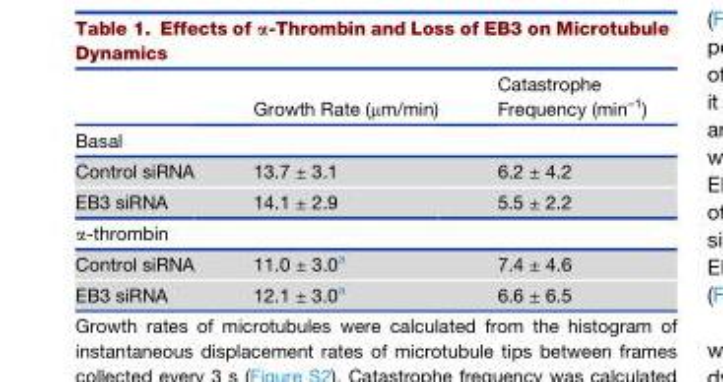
<table><thead><tr><td></td><td>Growth Rate (μm/min)</td><td>Catastrophe Frequency (min<sup>–1</sup>)</td></tr></thead><tbody><tr><td colspan="3">Basal</td></tr><tr><td>Control siRNA</td><td>13.7 ± 3.1</td><td>6.2 ± 4.2</td></tr><tr><td>EB3 siRNA</td><td>14.1 ± 2.9</td><td>5.5 ± 2.2</td></tr><tr><td colspan="3">α-thrombin</td></tr><tr><td>Control siRNA</td><td>11.0 ± 3.0<sup>a</sup></td><td>7.4 ± 4.6</td></tr><tr><td>EB3 siRNA</td><td>12.1 ± 3.0<sup>a</sup></td><td>6.6 ± 6.5</td></tr></tbody></table>